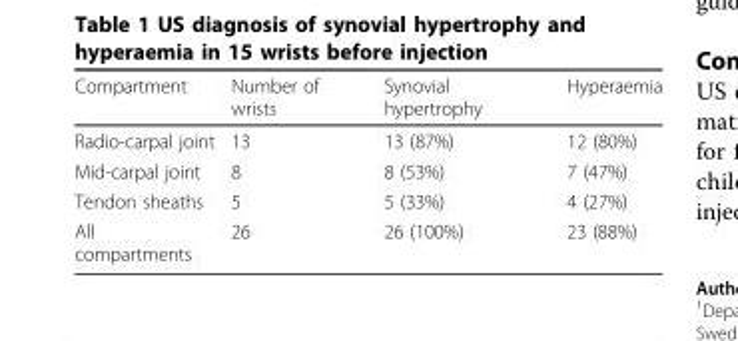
<table><thead><tr><td>Compartment</td><td>Number of wrists</td><td>Synovial hypertrophy</td><td>Hyperaemia</td></tr></thead><tbody><tr><td>Radio-carpal joint</td><td>13</td><td>13 (87%)</td><td>12 (80%)</td></tr><tr><td>Mid-carpal joint</td><td>8</td><td>8 (53%)</td><td>7 (47%)</td></tr><tr><td>Tendon sheaths</td><td>5</td><td>5 (33%)</td><td>4 (27%)</td></tr><tr><td>All compartments</td><td>26</td><td>26 (100%)</td><td>23 (88%)</td></tr></tbody></table>